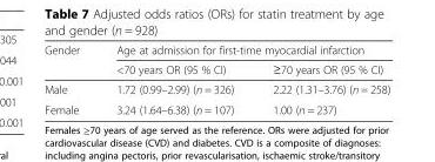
<table><thead><tr><td rowspan="2">Gender</td><td colspan="2">Age at admission for first-time myocardial infarction</td></tr><tr><td>&lt;70 years OR (95 % CI)</td><td>≥70 years OR (95 % CI)</td></tr></thead><tbody><tr><td>Male</td><td>1.72 (0.99–2.99) (n = 326)</td><td>2.22 (1.31–3.76) (n = 258)</td></tr><tr><td>Female</td><td>3.24 (1.64–6.38) (n = 107)</td><td>1.00 (n = 237)</td></tr></tbody></table>